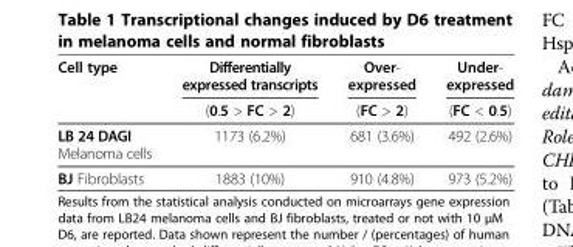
<table><thead><tr><td rowspan="2">Cell type</td><td rowspan="2">Differentially expressed transcripts (0.5 &gt; FC &gt; 2)</td><td rowspan="2">Over- expressed (FC &gt; 2)</td><td rowspan="2">Under- expressed (FC &lt; 0.5)</td></tr><tr></tr></thead><tbody><tr><td>LB 24 DAGI Melanoma cells</td><td>1173 (6.2%)</td><td>681 (3.6%)</td><td>492 (2.6%)</td></tr><tr><td>BJ Fibroblasts</td><td>1883 (10%)</td><td>910 (4.8%)</td><td>973 (5.2%)</td></tr></tbody></table>